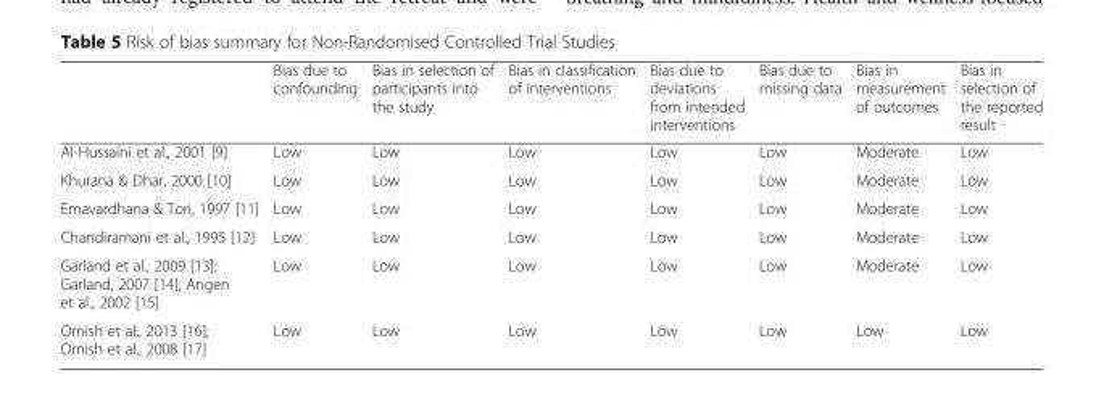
<table><thead><tr><td></td><td>Bias due to confounding</td><td>Bias in selection of participants into the study</td><td>Bias in classification of interventions</td><td>Bias due to deviations from intended interventions</td><td>Bias due to missing data</td><td>Bias in measurement of outcomes</td><td>Bias in selection of the reported result</td></tr></thead><tbody><tr><td>Al-Hussaini et al., 2001 [9]</td><td>Low</td><td>Low</td><td>Low</td><td>Low</td><td>Low</td><td>Moderate</td><td>Low</td></tr><tr><td>Khurana &amp; Dhar, 2000 [10]</td><td>Low</td><td>Low</td><td>Low</td><td>Low</td><td>Low</td><td>Moderate</td><td>Low</td></tr><tr><td>Emavardhana &amp; Tori, 1997 [11]</td><td>Low</td><td>Low</td><td>Low</td><td>Low</td><td>Low</td><td>Moderate</td><td>Low</td></tr><tr><td>Chandiramani et al., 1995 [12]</td><td>Low</td><td>Low</td><td>Low</td><td>Low</td><td>Low</td><td>Moderate</td><td>Low</td></tr><tr><td>Garland et al., 2009 [13]; Garland, 2007 [14]; Angen et al., 2002 [15]</td><td>Low</td><td>Low</td><td>Low</td><td>Low</td><td>Low</td><td>Moderate</td><td>Low</td></tr><tr><td>Ornish et al., 2013 [16]; Ornish et al., 2008 [17]</td><td>Low</td><td>Low</td><td>Low</td><td>Low</td><td>Low</td><td>Low</td><td>Low</td></tr></tbody></table>